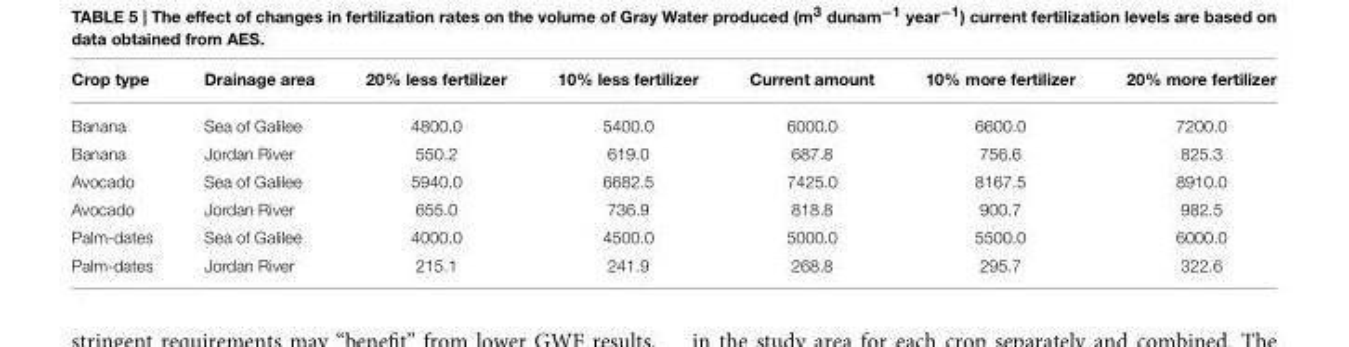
<table><thead><tr><td>Crop type</td><td>Drainage area</td><td>20% less fertilizer</td><td>10% less fertilizer</td><td>Current amount</td><td>10% more fertilizer</td><td>20% more fertilizer</td></tr></thead><tbody><tr><td>Banana</td><td>Sea of Galilee</td><td>4800.0</td><td>5400.0</td><td>6000.0</td><td>6600.0</td><td>7200.0</td></tr><tr><td>Banana</td><td>Jordan River</td><td>550.2</td><td>619.0</td><td>687.8</td><td>756.6</td><td>825.3</td></tr><tr><td>Avocado</td><td>Sea of Galilee</td><td>5940.0</td><td>6682.5</td><td>7425.0</td><td>8167.5</td><td>8910.0</td></tr><tr><td>Avocado</td><td>Jordan River</td><td>655.0</td><td>736.9</td><td>818.8</td><td>900.7</td><td>982.5</td></tr><tr><td>Palm-dates</td><td>Sea of Galilee</td><td>4000.0</td><td>4500.0</td><td>5000.0</td><td>5500.0</td><td>6000.0</td></tr><tr><td>Palm-dates</td><td>Jordan River</td><td>215.1</td><td>241.9</td><td>268.8</td><td>295.7</td><td>322.6</td></tr></tbody></table>